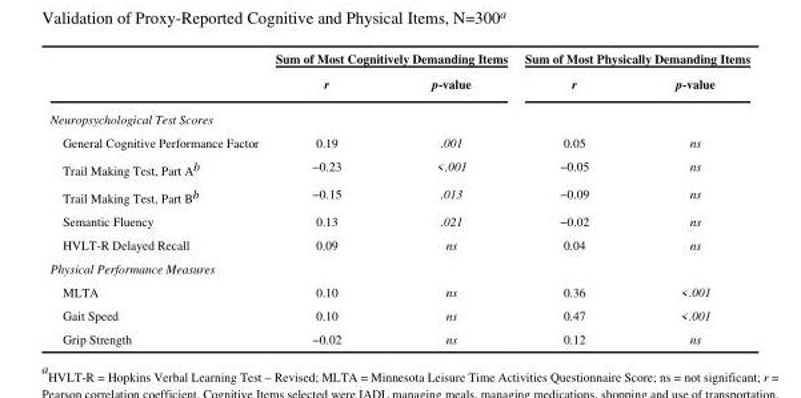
<table><thead><tr><td rowspan="2"></td><td colspan="2">Sum of Most Cognitively Demanding Items</td><td colspan="2">Sum of Most Physically Demanding Items</td></tr><tr><td>r</td><td>p-value</td><td>r</td><td>p-value</td></tr></thead><tbody><tr><td colspan="5">Neuropsychological Test Scores</td></tr><tr><td>General Cognitive Performance Factor</td><td>0.19</td><td>.001</td><td>0.05</td><td>ns</td></tr><tr><td>Trail Making Test, Part A<sup>b</sup></td><td>−0.23</td><td>&lt;.001</td><td>−0.05</td><td>ns</td></tr><tr><td>Trail Making Test, Part B<sup>b</sup></td><td>−0.15</td><td>.013</td><td>−0.09</td><td>ns</td></tr><tr><td>Semantic Fluency</td><td>0.13</td><td>.021</td><td>−0.02</td><td>ns</td></tr><tr><td>HVLT-R Delayed Recall</td><td>0.09</td><td>ns</td><td>0.04</td><td>ns</td></tr><tr><td colspan="5">Physical Performance Measures</td></tr><tr><td>MLTA</td><td>0.10</td><td>ns</td><td>0.36</td><td>&lt;.001</td></tr><tr><td>Gait Speed</td><td>0.10</td><td>ns</td><td>0.47</td><td>&lt;.001</td></tr><tr><td>Grip Strength</td><td>−0.02</td><td>ns</td><td>0.12</td><td>ns</td></tr></tbody></table>